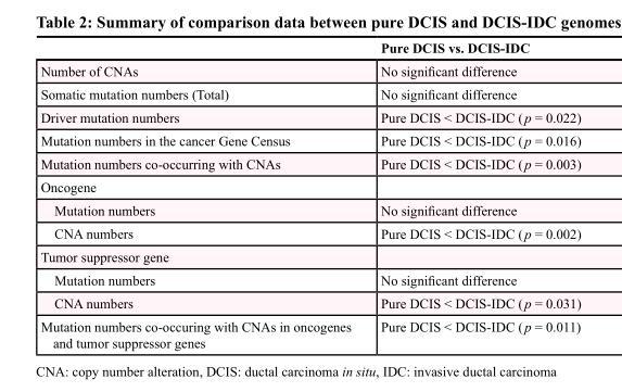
<table><thead><tr><td></td><td>Pure DCIS vs. DCIS-IDC</td></tr></thead><tbody><tr><td>Number of CNAs</td><td>No significant difference</td></tr><tr><td>Somatic mutation numbers (Total)</td><td>No significant difference</td></tr><tr><td>Driver mutation numbers</td><td>Pure DCIS &lt; DCIS-IDC ( p = 0.022)</td></tr><tr><td>Mutation numbers in the cancer Gene Census</td><td>Pure DCIS &lt; DCIS-IDC ( p = 0.016)</td></tr><tr><td>Mutation numbers co-occurring with CNAs</td><td>Pure DCIS &lt; DCIS-IDC ( p = 0.003)</td></tr><tr><td colspan="2">Oncogene</td></tr><tr><td>Mutation numbers</td><td>No significant difference</td></tr><tr><td>CNA numbers</td><td>Pure DCIS &lt; DCIS-IDC ( p = 0.002)</td></tr><tr><td colspan="2">Tumor suppressor gene</td></tr><tr><td>Mutation numbers</td><td>No significant difference</td></tr><tr><td>CNA numbers</td><td>Pure DCIS &lt; DCIS-IDC ( p = 0.031)</td></tr><tr><td>M utation numbers co-occuring with CNAs in oncogenes and tumor suppressor genes</td><td>Pure DCIS &lt; DCIS-IDC ( p = 0.011)</td></tr></tbody></table>